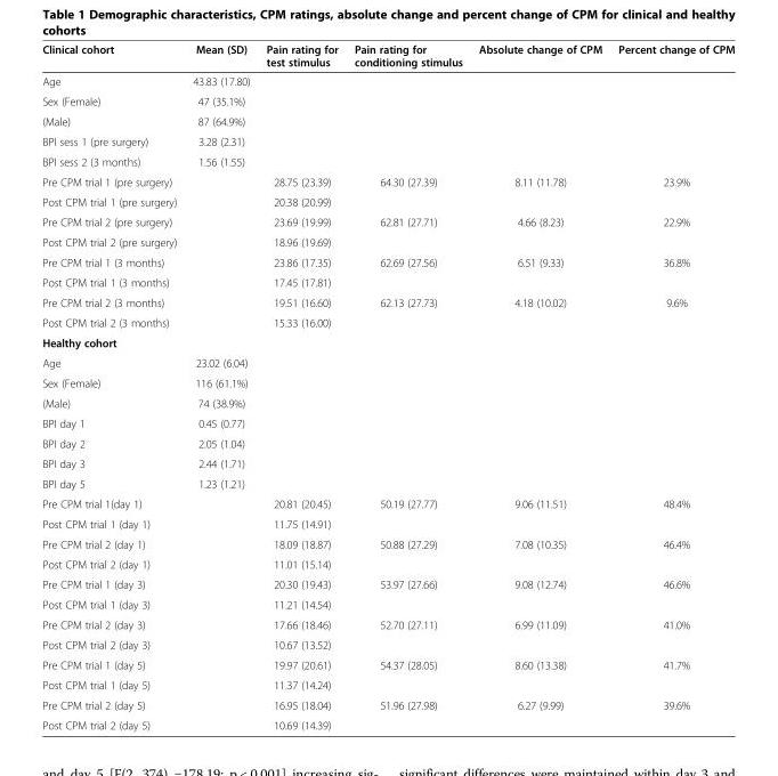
<table><thead><tr><td>Clinical cohort</td><td>Mean (SD)</td><td>Pain rating for test stimulus</td><td>Pain rating for conditioning stimulus</td><td>Absolute change of CPM</td><td>Percent change of CPM</td></tr></thead><tbody><tr><td>Age</td><td>43.83 (17.80)</td><td></td><td></td><td></td><td></td></tr><tr><td>Sex (Female)</td><td>47 (35.1%)</td><td></td><td></td><td></td><td></td></tr><tr><td>(Male)</td><td>87 (64.9%)</td><td></td><td></td><td></td><td></td></tr><tr><td>BPI sess 1 (pre surgery)</td><td>3.28 (2.31)</td><td></td><td></td><td></td><td></td></tr><tr><td>BPI sess 2 (3 months)</td><td>1.56 (1.55)</td><td></td><td></td><td></td><td></td></tr><tr><td>Pre CPM trial 1 (pre surgery)</td><td></td><td>28.75 (23.39)</td><td>64.30 (27.39)</td><td>8.11 (11.78)</td><td>23.9%</td></tr><tr><td>Post CPM trial 1 (pre surgery)</td><td></td><td>20.38 (20.99)</td><td></td><td></td><td></td></tr><tr><td>Pre CPM trial 2 (pre surgery)</td><td></td><td>23.69 (19.99)</td><td>62.81 (27.71)</td><td>4.66 (8.23)</td><td>22.9%</td></tr><tr><td>Post CPM trial 2 (pre surgery)</td><td></td><td>18.96 (19.69)</td><td></td><td></td><td></td></tr><tr><td>Pre CPM trial 1 (3 months)</td><td></td><td>23.86 (17.35)</td><td>62.69 (27.56)</td><td>6.51 (9.33)</td><td>36.8%</td></tr><tr><td>Post CPM trial 1 (3 months)</td><td></td><td>17.45 (17.81)</td><td></td><td></td><td></td></tr><tr><td>Pre CPM trial 2 (3 months)</td><td></td><td>19.51 (16.60)</td><td>62.13 (27.73)</td><td>4.18 (10.02)</td><td>9.6%</td></tr><tr><td>Post CPM trial 2 (3 months)</td><td></td><td>15.33 (16.00)</td><td></td><td></td><td></td></tr><tr><td colspan="6">Healthy cohort</td></tr><tr><td>Age</td><td>23.02 (6.04)</td><td></td><td></td><td></td><td></td></tr><tr><td>Sex (Female)</td><td>116 (61.1%)</td><td></td><td></td><td></td><td></td></tr><tr><td>(Male)</td><td>74 (38.9%)</td><td></td><td></td><td></td><td></td></tr><tr><td>BPI day 1</td><td>0.45 (0.77)</td><td></td><td></td><td></td><td></td></tr><tr><td>BPI day 2</td><td>2.05 (1.04)</td><td></td><td></td><td></td><td></td></tr><tr><td>BPI day 3</td><td>2.44 (1.71)</td><td></td><td></td><td></td><td></td></tr><tr><td>BPI day 5</td><td>1.23 (1.21)</td><td></td><td></td><td></td><td></td></tr><tr><td>Pre CPM trial 1(day 1)</td><td></td><td>20.81 (20.45)</td><td>50.19 (27.77)</td><td>9.06 (11.51)</td><td>48.4%</td></tr><tr><td>Post CPM trial 1 (day 1)</td><td></td><td>11.75 (14.91)</td><td></td><td></td><td></td></tr><tr><td>Pre CPM trial 2 (day 1)</td><td></td><td>18.09 (18.87)</td><td>50.88 (27.29)</td><td>7.08 (10.35)</td><td>46.4%</td></tr><tr><td>Post CPM trial 2 (day 1)</td><td></td><td>11.01 (15.14)</td><td></td><td></td><td></td></tr><tr><td>Pre CPM trial 1 (day 3)</td><td></td><td>20.30 (19.43)</td><td>53.97 (27.66)</td><td>9.08 (12.74)</td><td>46.6%</td></tr><tr><td>Post CPM trial 1 (day 3)</td><td></td><td>11.21 (14.54)</td><td></td><td></td><td></td></tr><tr><td>Pre CPM trial 2 (day 3)</td><td></td><td>17.66 (18.46)</td><td>52.70 (27.11)</td><td>6.99 (11.09)</td><td>41.0%</td></tr><tr><td>Post CPM trial 2 (day 3)</td><td></td><td>10.67 (13.52)</td><td></td><td></td><td></td></tr><tr><td>Pre CPM trial 1 (day 5)</td><td></td><td>19.97 (20.61)</td><td>54.37 (28.05)</td><td>8.60 (13.38)</td><td>41.7%</td></tr><tr><td>Post CPM trial 1 (day 5)</td><td></td><td>11.37 (14.24)</td><td></td><td></td><td></td></tr><tr><td>Pre CPM trial 2 (day 5)</td><td></td><td>16.95 (18.04)</td><td>51.96 (27.98)</td><td>6.27 (9.99)</td><td>39.6%</td></tr><tr><td>Post CPM trial 2 (day 5)</td><td></td><td>10.69 (14.39)</td><td></td><td></td><td></td></tr></tbody></table>